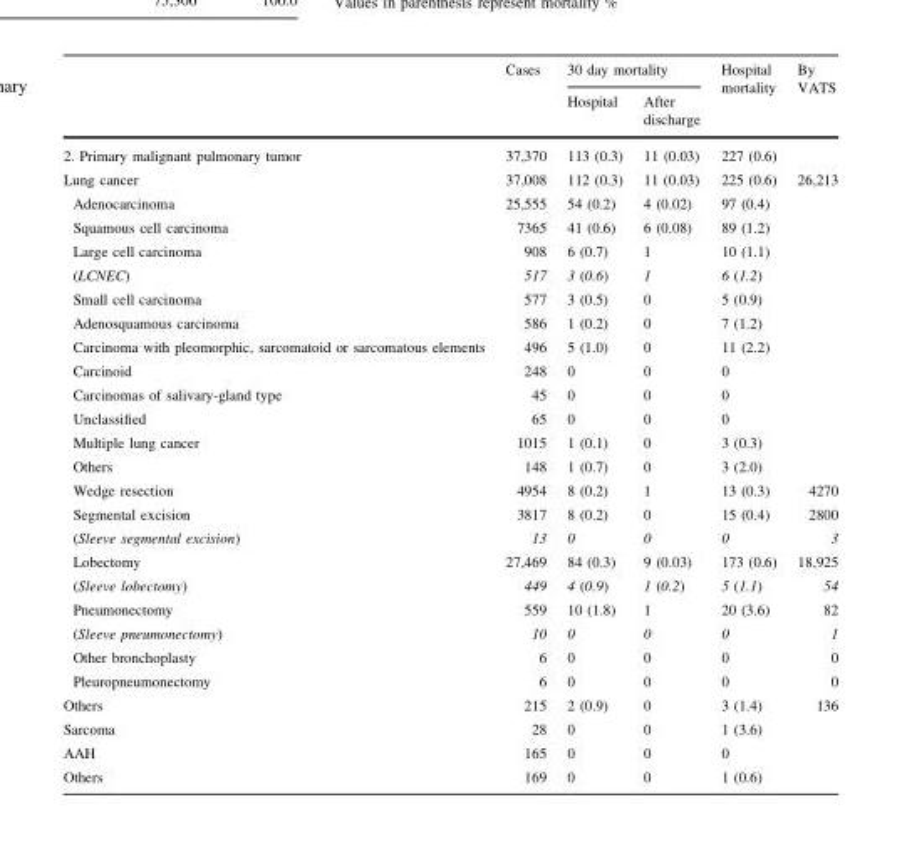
<table><thead><tr><td rowspan="2"></td><td rowspan="2">Cases</td><td colspan="2">30 day mortality</td><td rowspan="2">Hospital mortality</td><td rowspan="2">By VATS</td></tr><tr><td>Hospital</td><td>After discharge</td></tr></thead><tbody><tr><td>2. Primary malignant pulmonary tumor</td><td>37,370</td><td>113 (0.3)</td><td>11 (0.03)</td><td>227 (0.6)</td><td></td></tr><tr><td>Lung cancer</td><td>37,008</td><td>112 (0.3)</td><td>11 (0.03)</td><td>225 (0.6)</td><td>26,213</td></tr><tr><td>Adenocarcinoma</td><td>25,555</td><td>54 (0.2)</td><td>4 (0.02)</td><td>97 (0.4)</td><td></td></tr><tr><td>Squamous cell carcinoma</td><td>7365</td><td>41 (0.6)</td><td>6 (0.08)</td><td>89 (1.2)</td><td></td></tr><tr><td>Large cell carcinoma</td><td>908</td><td>6 (0.7)</td><td>1</td><td>10 (1.1)</td><td></td></tr><tr><td>(LCNEC)</td><td>517</td><td>3 (0.6)</td><td>1</td><td>6 (1.2)</td><td></td></tr><tr><td>Small cell carcinoma</td><td>577</td><td>3 (0.5)</td><td>0</td><td>5 (0.9)</td><td></td></tr><tr><td>Adenosquamous carcinoma</td><td>586</td><td>1 (0.2)</td><td>0</td><td>7 (1.2)</td><td></td></tr><tr><td>Carcinoma with pleomorphic, sarcomatoid or sarcomatous elements</td><td>496</td><td>5 (1.0)</td><td>0</td><td>11 (2.2)</td><td></td></tr><tr><td>Carcinoid</td><td>248</td><td>0</td><td>0</td><td>0</td><td></td></tr><tr><td>Carcinomas of salivary-gland type</td><td>45</td><td>0</td><td>0</td><td>0</td><td></td></tr><tr><td>Unclassified</td><td>65</td><td>0</td><td>0</td><td>0</td><td></td></tr><tr><td>Multiple lung cancer</td><td>1015</td><td>1 (0.1)</td><td>0</td><td>3 (0.3)</td><td></td></tr><tr><td>Others</td><td>148</td><td>1 (0.7)</td><td>0</td><td>3 (2.0)</td><td></td></tr><tr><td>Wedge resection</td><td>4954</td><td>8 (0.2)</td><td>1</td><td>13 (0.3)</td><td>4270</td></tr><tr><td>Segmental excision</td><td>3817</td><td>8 (0.2)</td><td>0</td><td>15 (0.4)</td><td>2800</td></tr><tr><td>(Sleeve segmental excision)</td><td>13</td><td>0</td><td>0</td><td>0</td><td>3</td></tr><tr><td>Lobectomy</td><td>27,469</td><td>84 (0.3)</td><td>9 (0.03)</td><td>173 (0.6)</td><td>18,925</td></tr><tr><td>(Sleeve lobectomy)</td><td>449</td><td>4 (0.9)</td><td>1 (0.2)</td><td>5 (1.1)</td><td>54</td></tr><tr><td>Pneumonectomy</td><td>559</td><td>10 (1.8)</td><td>1</td><td>20 (3.6)</td><td>82</td></tr><tr><td>(Sleeve pneumonectomy)</td><td>10</td><td>0</td><td>0</td><td>0</td><td>1</td></tr><tr><td>Other bronchoplasty</td><td>6</td><td>0</td><td>0</td><td>0</td><td>0</td></tr><tr><td>Pleuropneumonectomy</td><td>6</td><td>0</td><td>0</td><td>0</td><td>0</td></tr><tr><td>Others</td><td>215</td><td>2 (0.9)</td><td>0</td><td>3 (1.4)</td><td>136</td></tr><tr><td>Sarcoma</td><td>28</td><td>0</td><td>0</td><td>1 (3.6)</td><td></td></tr><tr><td>AAH</td><td>165</td><td>0</td><td>0</td><td>0</td><td></td></tr><tr><td>Others</td><td>169</td><td>0</td><td>0</td><td>1 (0.6)</td><td></td></tr></tbody></table>